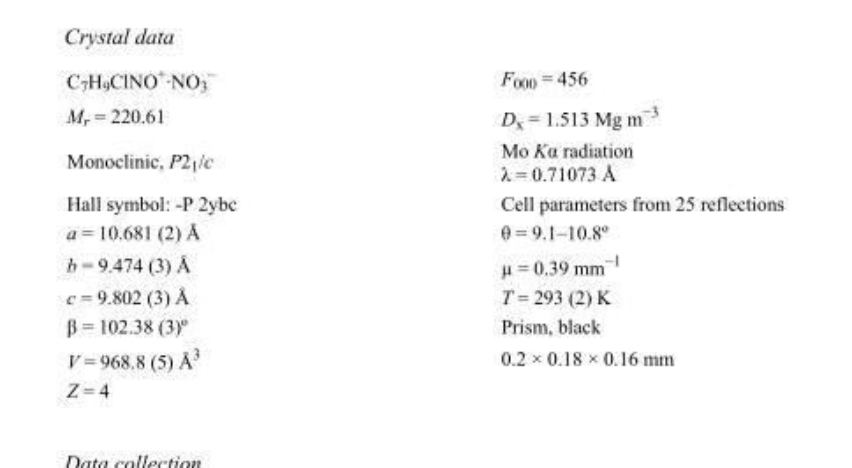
<table><tbody><tr><td>C<sub>7</sub>H<sub>9</sub>ClNO<sup>+</sup>·NO<sub>3</sub> <sup>–</sup></td><td>F<sub>000</sub> = 456</td></tr><tr><td>M<sub>r</sub> = 220.61</td><td>D<sub>x</sub> = 1.513 Mg m<sup>−3</sup></td></tr><tr><td>Monoclinic, P2<sub>1</sub>/c</td><td>Mo Kα radiation λ = 0.71073 Å</td></tr><tr><td>Hall symbol: -P 2ybc</td><td>Cell parameters from 25 reflections</td></tr><tr><td>a = 10.681 (2) Å</td><td>θ = 9.1–10.8º</td></tr><tr><td>b = 9.474 (3) Å</td><td>µ = 0.39 mm<sup>−1</sup></td></tr><tr><td>c = 9.802 (3) Å</td><td>T = 293 (2) K</td></tr><tr><td>β = 102.38 (3)º</td><td>Prism, black</td></tr><tr><td>V = 968.8 (5) Å<sup>3</sup></td><td>0.2 × 0.18 × 0.16 mm</td></tr><tr><td>Z = 4</td><td></td></tr></tbody></table>